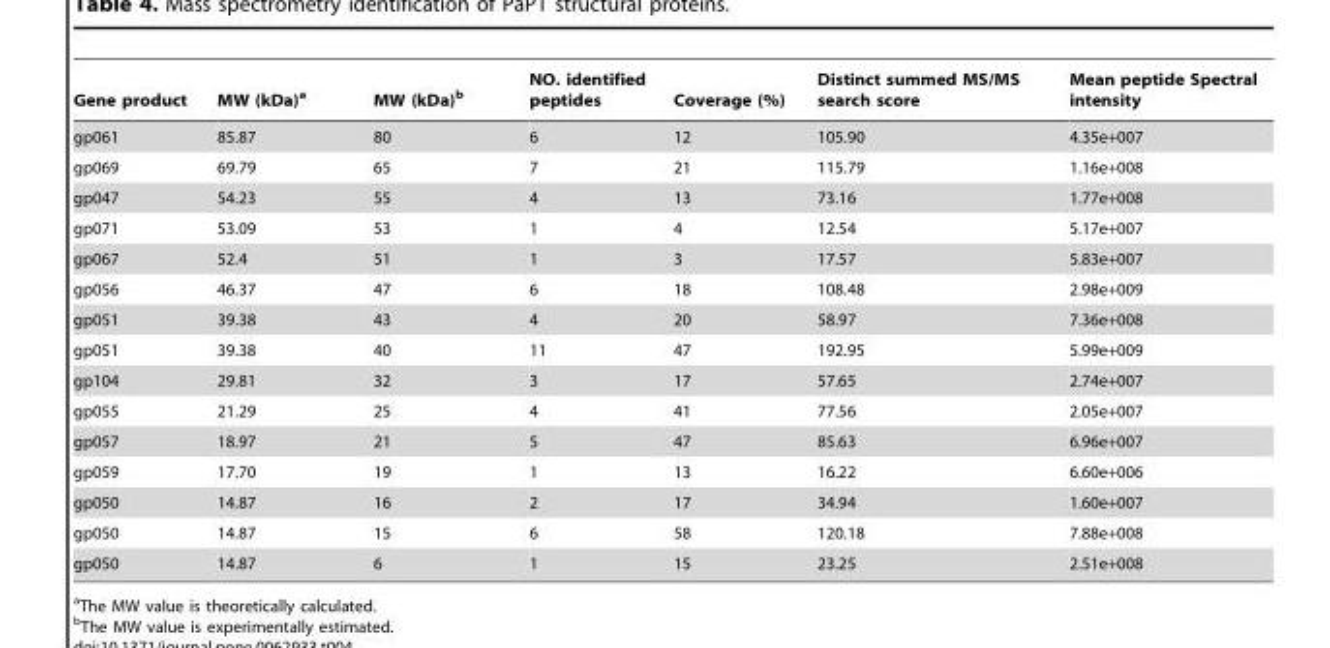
<table><thead><tr><td>Gene product</td><td>MW (kDa)<sup>a</sup></td><td>MW (kDa)<sup>b</sup></td><td>NO. identified peptides</td><td>Coverage (%)</td><td>Distinct summed MS/MS search score</td><td>Mean peptide Spectral intensity</td></tr></thead><tbody><tr><td>gp061</td><td>85.87</td><td>80</td><td>6</td><td>12</td><td>105.90</td><td>4.35e+007</td></tr><tr><td>gp069</td><td>69.79</td><td>65</td><td>7</td><td>21</td><td>115.79</td><td>1.16e+008</td></tr><tr><td>gp047</td><td>54.23</td><td>55</td><td>4</td><td>13</td><td>73.16</td><td>1.77e+008</td></tr><tr><td>gp071</td><td>53.09</td><td>53</td><td>1</td><td>4</td><td>12.54</td><td>5.17e+007</td></tr><tr><td>gp067</td><td>52.4</td><td>51</td><td>1</td><td>3</td><td>17.57</td><td>5.83e+007</td></tr><tr><td>gp056</td><td>46.37</td><td>47</td><td>6</td><td>18</td><td>108.48</td><td>2.98e+009</td></tr><tr><td>gp051</td><td>39.38</td><td>43</td><td>4</td><td>20</td><td>58.97</td><td>7.36e+008</td></tr><tr><td>gp051</td><td>39.38</td><td>40</td><td>11</td><td>47</td><td>192.95</td><td>5.99e+009</td></tr><tr><td>gp104</td><td>29.81</td><td>32</td><td>3</td><td>17</td><td>57.65</td><td>2.74e+007</td></tr><tr><td>gp055</td><td>21.29</td><td>25</td><td>4</td><td>41</td><td>77.56</td><td>2.05e+007</td></tr><tr><td>gp057</td><td>18.97</td><td>21</td><td>5</td><td>47</td><td>85.63</td><td>6.96e+007</td></tr><tr><td>gp059</td><td>17.70</td><td>19</td><td>1</td><td>13</td><td>16.22</td><td>6.60e+006</td></tr><tr><td>gp050</td><td>14.87</td><td>16</td><td>2</td><td>17</td><td>34.94</td><td>1.60e+007</td></tr><tr><td>gp050</td><td>14.87</td><td>15</td><td>6</td><td>58</td><td>120.18</td><td>7.88e+008</td></tr><tr><td>gp050</td><td>14.87</td><td>6</td><td>1</td><td>15</td><td>23.25</td><td>2.51e+008</td></tr></tbody></table>